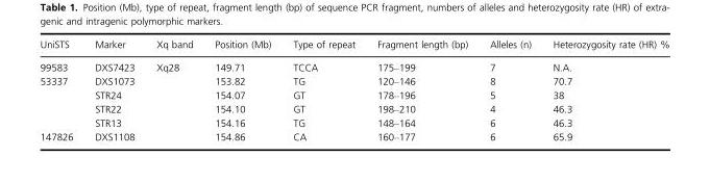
<table><thead><tr><td>UniSTS</td><td>Marker</td><td>Xq band</td><td>Position (Mb)</td><td>Type of repeat</td><td>Fragment length (bp)</td><td>Alleles (n)</td><td>Heterozygosity rate (HR) %</td></tr></thead><tbody><tr><td>99583</td><td>DXS7423</td><td rowspan="6">Xq28</td><td>149.71</td><td>TCCA</td><td>175–199</td><td>7</td><td>N.A.</td></tr><tr><td rowspan="4">53337</td><td>DXS1073</td><td>153.82</td><td>TG</td><td>120–146</td><td>8</td><td>70.7</td></tr><tr><td>STR24</td><td>154.07</td><td>GT</td><td>178–196</td><td>5</td><td>38</td></tr><tr><td>STR22</td><td>154.10</td><td>GT</td><td>198–210</td><td>4</td><td>46.3</td></tr><tr><td>STR13</td><td>154.16</td><td>TG</td><td>148–164</td><td>6</td><td>46.3</td></tr><tr><td>147826</td><td>DXS1108</td><td>154.86</td><td>CA</td><td>160–177</td><td>6</td><td>65.9</td></tr></tbody></table>